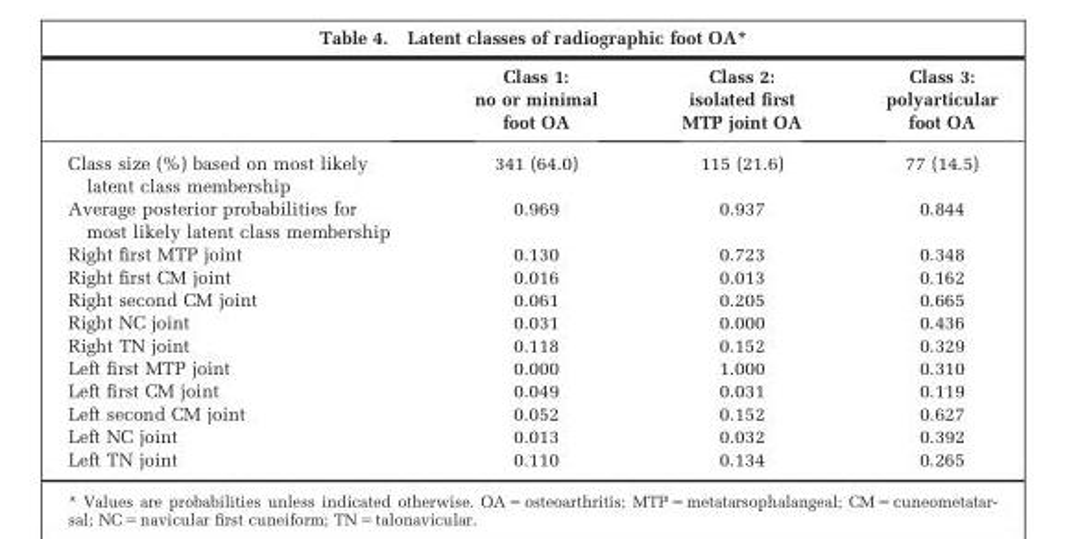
<table><thead><tr><td></td><td>Class 1: no or minimal foot OA</td><td>Class 2: isolated first MTP joint OA</td><td>Class 3: polyarticular foot OA</td></tr></thead><tbody><tr><td>Class size (%) based on most likely latent class membership</td><td>341 (64.0)</td><td>115 (21.6)</td><td>77 (14.5)</td></tr><tr><td>Average posterior probabilities for most likely latent class membership</td><td>0.969</td><td>0.937</td><td>0.844</td></tr><tr><td>Right first MTP joint</td><td>0.130</td><td>0.723</td><td>0.348</td></tr><tr><td>Right first CM joint</td><td>0.016</td><td>0.013</td><td>0.162</td></tr><tr><td>Right second CM joint</td><td>0.061</td><td>0.205</td><td>0.665</td></tr><tr><td>Right NC joint</td><td>0.031</td><td>0.000</td><td>0.436</td></tr><tr><td>Right TN joint</td><td>0.118</td><td>0.152</td><td>0.329</td></tr><tr><td>Left first MTP joint</td><td>0.000</td><td>1.000</td><td>0.310</td></tr><tr><td>Left first CM joint</td><td>0.049</td><td>0.031</td><td>0.119</td></tr><tr><td>Left second CM joint</td><td>0.052</td><td>0.152</td><td>0.627</td></tr><tr><td>Left NC joint</td><td>0.013</td><td>0.032</td><td>0.392</td></tr><tr><td>Left TN joint</td><td>0.110</td><td>0.134</td><td>0.265</td></tr></tbody></table>